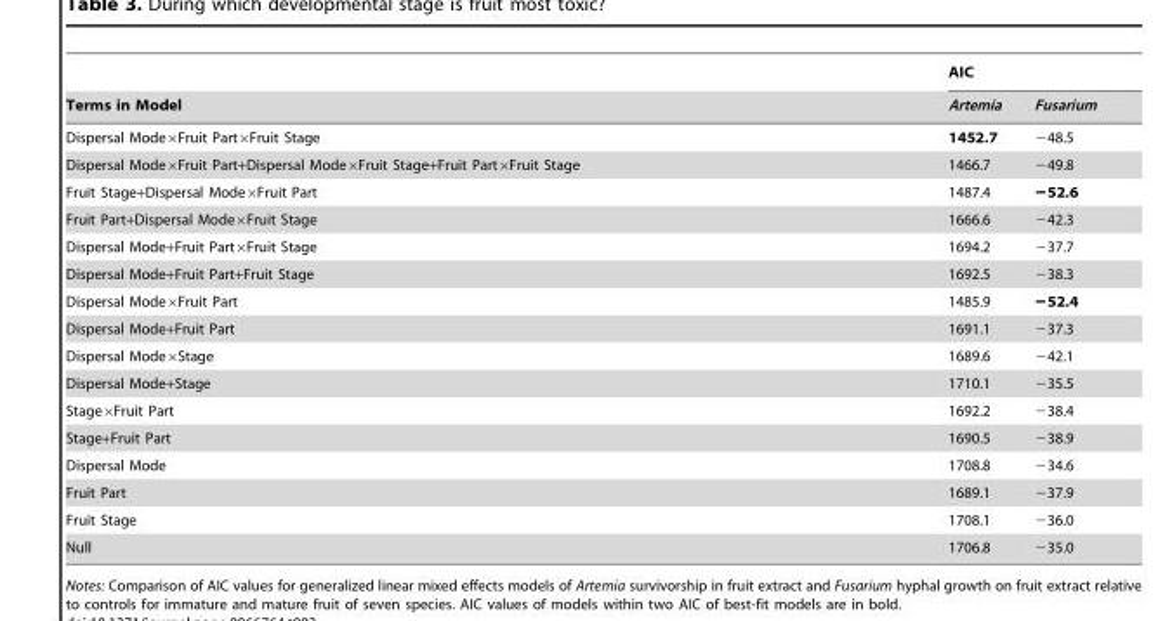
<table><thead><tr><td rowspan="2">Terms in Model</td><td colspan="2">AIC</td></tr><tr><td>Artemia</td><td>Fusarium</td></tr></thead><tbody><tr><td>Dispersal Mode×Fruit Part×Fruit Stage</td><td>1452.7</td><td>−48.5</td></tr><tr><td>Dispersal Mode×Fruit Part+Dispersal Mode×Fruit Stage+Fruit Part×Fruit Stage</td><td>1466.7</td><td>−49.8</td></tr><tr><td>Fruit Stage+Dispersal Mode×Fruit Part</td><td>1487.4</td><td>−52.6</td></tr><tr><td>Fruit Part+Dispersal Mode×Fruit Stage</td><td>1666.6</td><td>−42.3</td></tr><tr><td>Dispersal Mode+Fruit Part×Fruit Stage</td><td>1694.2</td><td>−37.7</td></tr><tr><td>Dispersal Mode+Fruit Part+Fruit Stage</td><td>1692.5</td><td>−38.3</td></tr><tr><td>Dispersal Mode×Fruit Part</td><td>1485.9</td><td>−52.4</td></tr><tr><td>Dispersal Mode+Fruit Part</td><td>1691.1</td><td>−37.3</td></tr><tr><td>Dispersal Mode×Stage</td><td>1689.6</td><td>−42.1</td></tr><tr><td>Dispersal Mode+Stage</td><td>1710.1</td><td>−35.5</td></tr><tr><td>Stage×Fruit Part</td><td>1692.2</td><td>−38.4</td></tr><tr><td>Stage+Fruit Part</td><td>1690.5</td><td>−38.9</td></tr><tr><td>Dispersal Mode</td><td>1708.8</td><td>−34.6</td></tr><tr><td>Fruit Part</td><td>1689.1</td><td>−37.9</td></tr><tr><td>Fruit Stage</td><td>1708.1</td><td>−36.0</td></tr><tr><td>Null</td><td>1706.8</td><td>−35.0</td></tr></tbody></table>